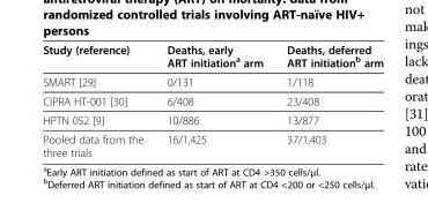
<table><thead><tr><td>Study (reference)</td><td>Deaths, early ART initiation<sup>a</sup> arm</td><td>Deaths, deferred ART initiation<sup>b</sup> arm</td></tr></thead><tbody><tr><td>SMART [29]</td><td>0/131</td><td>1/118</td></tr><tr><td>CIPRA HT-001 [30]</td><td>6/408</td><td>23/408</td></tr><tr><td>HPTN 052 [9]</td><td>10/886</td><td>13/877</td></tr><tr><td>Pooled data from the three trials</td><td>16/1,425</td><td>37/1,403</td></tr></tbody></table>